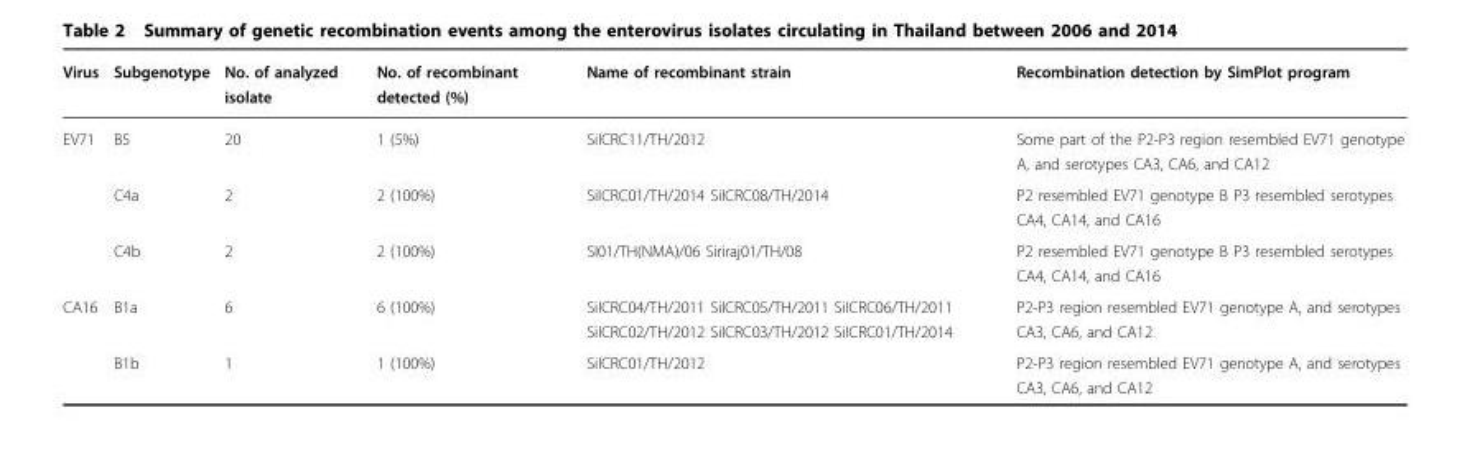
<table><thead><tr><td>Virus</td><td>Subgenotype</td><td>No. of analyzed isolate</td><td>No. of recombinant detected (%)</td><td>Name of recombinant strain</td><td>Recombination detection by SimPlot program</td></tr></thead><tbody><tr><td rowspan="3">EV71</td><td>B5</td><td>20</td><td>1 (5%)</td><td>SiICRC11/TH/2012</td><td>Some part of the P2-P3 region resembled EV71 genotype A, and serotypes CA3, CA6, and CA12</td></tr><tr><td>C4a</td><td>2</td><td>2 (100%)</td><td>SiICRC01/TH/2014 SiICRC08/TH/2014</td><td>P2 resembled EV71 genotype B P3 resembled serotypes CA4, CA14, and CA16</td></tr><tr><td>C4b</td><td>2</td><td>2 (100%)</td><td>SI01/TH(NMA)/06 Siriraj01/TH/08</td><td>P2 resembled EV71 genotype B P3 resembled serotypes CA4, CA14, and CA16</td></tr><tr><td rowspan="2">CA16</td><td>B1a</td><td>6</td><td>6 (100%)</td><td>SiICRC04/TH/2011 SiICRC05/TH/2011 SiICRC06/TH/2011 SiICRC02/TH/2012 SiICRC03/TH/2012 SiICRC01/TH/2014</td><td>P2-P3 region resembled EV71 genotype A, and serotypes CA3, CA6, and CA12</td></tr><tr><td>B1b</td><td>1</td><td>1 (100%)</td><td>SiICRC01/TH/2012</td><td>P2-P3 region resembled EV71 genotype A, and serotypes CA3, CA6, and CA12</td></tr></tbody></table>